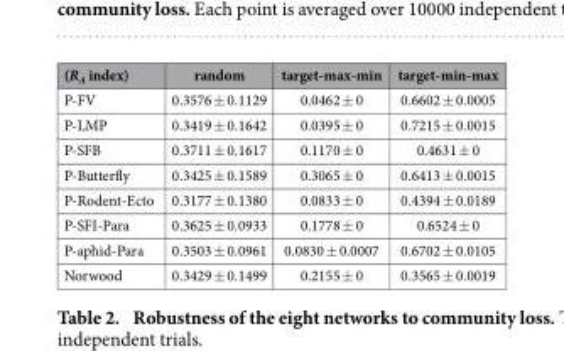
<table><thead><tr><td>(R<sub>A</sub> index)</td><td>random</td><td>target-max-min</td><td>target-min-max</td></tr></thead><tbody><tr><td>P-FV</td><td>0.3576 ± 0.1129</td><td>0.0462 ± 0</td><td>0.6602 ± 0.0005</td></tr><tr><td>P-LMP</td><td>0.3419 ± 0.1642</td><td>0.0395 ± 0</td><td>0.7215 ± 0.0015</td></tr><tr><td>P-SFB</td><td>0.3711 ± 0.1617</td><td>0.1170 ± 0</td><td>0.4631 ± 0</td></tr><tr><td>P-Butterfly</td><td>0.3425 ± 0.1589</td><td>0.3065 ± 0</td><td>0.6413 ± 0.0015</td></tr><tr><td>P-Rodent-Ecto</td><td>0.3177 ± 0.1380</td><td>0.0833 ± 0</td><td>0.4394 ± 0.0189</td></tr><tr><td>P-SFI-Para</td><td>0.3625 ± 0.0933</td><td>0.1778 ± 0</td><td>0.6524 ± 0</td></tr><tr><td>P-aphid-Para</td><td>0.3503 ± 0.0961</td><td>0.0830 ± 0.0007</td><td>0.6702 ± 0.0105</td></tr><tr><td>Norwood</td><td>0.3429 ± 0.1499</td><td>0.2155 ± 0</td><td>0.3565 ± 0.0019</td></tr></tbody></table>